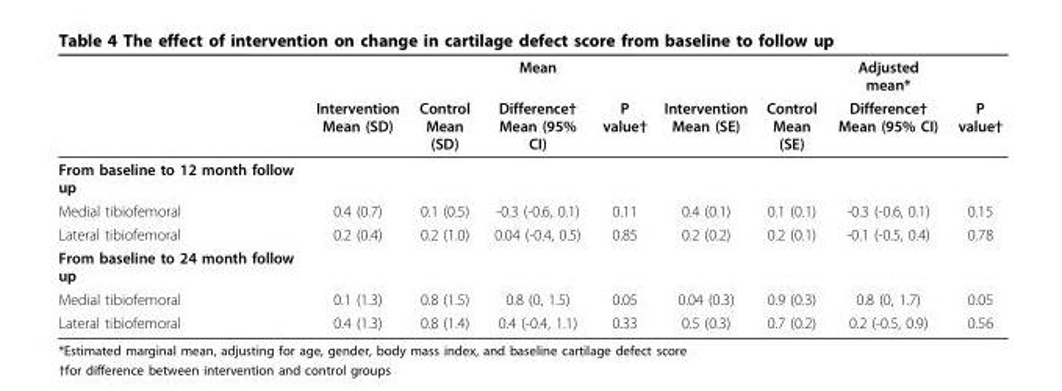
<table><thead><tr><td rowspan="2"></td><td rowspan="2">Intervention Mean (SD)</td><td rowspan="2">Control Mean (SD)</td><td rowspan="2">Mean Difference† Mean (95% CI)</td><td rowspan="2">P value†</td><td rowspan="2">Intervention Mean (SE)</td><td rowspan="2">Control Mean (SE)</td><td rowspan="2">Adjusted mean* Difference† Mean (95% CI)</td><td rowspan="2">P value†</td></tr><tr></tr></thead><tbody><tr><td colspan="9">From baseline to 12 month follow up</td></tr><tr><td>Medial tibiofemoral</td><td>0.4 (0.7)</td><td>0.1 (0.5)</td><td>-0.3 (-0.6, 0.1)</td><td>0.11</td><td>0.4 (0.1)</td><td>0.1 (0.1)</td><td>-0.3 (-0.6, 0.1)</td><td>0.15</td></tr><tr><td>Lateral tibiofemoral</td><td>0.2 (0.4)</td><td>0.2 (1.0)</td><td>0.04 (-0.4, 0.5)</td><td>0.85</td><td>0.2 (0.2)</td><td>0.2 (0.1)</td><td>-0.1 (-0.5, 0.4)</td><td>0.78</td></tr><tr><td colspan="9">From baseline to 24 month follow up</td></tr><tr><td>Medial tibiofemoral</td><td>0.1 (1.3)</td><td>0.8 (1.5)</td><td>0.8 (0, 1.5)</td><td>0.05</td><td>0.04 (0.3)</td><td>0.9 (0.3)</td><td>0.8 (0, 1.7)</td><td>0.05</td></tr><tr><td>Lateral tibiofemoral</td><td>0.4 (1.3)</td><td>0.8 (1.4)</td><td>0.4 (-0.4, 1.1)</td><td>0.33</td><td>0.5 (0.3)</td><td>0.7 (0.2)</td><td>0.2 (-0.5, 0.9)</td><td>0.56</td></tr></tbody></table>